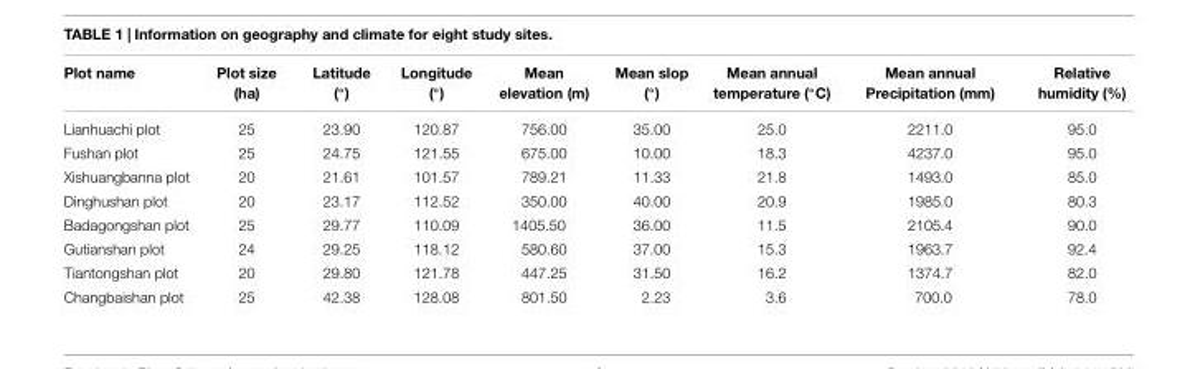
<table><thead><tr><td>Plot name</td><td>Plot size (ha)</td><td>Latitude (◦)</td><td>Longitude (◦)</td><td>Mean elevation (m)</td><td>Mean slop (◦)</td><td>Mean annual temperature (◦C)</td><td>Mean annual Precipitation (mm)</td><td>Relative humidity (%)</td></tr></thead><tbody><tr><td>Lianhuachi plot</td><td>25</td><td>23.90</td><td>120.87</td><td>756.00</td><td>35.00</td><td>25.0</td><td>2211.0</td><td>95.0</td></tr><tr><td>Fushan plot</td><td>25</td><td>24.75</td><td>121.55</td><td>675.00</td><td>10.00</td><td>18.3</td><td>4237.0</td><td>95.0</td></tr><tr><td>Xishuangbanna plot</td><td>20</td><td>21.61</td><td>101.57</td><td>789.21</td><td>11.33</td><td>21.8</td><td>1493.0</td><td>85.0</td></tr><tr><td>Dinghushan plot</td><td>20</td><td>23.17</td><td>112.52</td><td>350.00</td><td>40.00</td><td>20.9</td><td>1985.0</td><td>80.3</td></tr><tr><td>Badagongshan plot</td><td>25</td><td>29.77</td><td>110.09</td><td>1405.50</td><td>36.00</td><td>11.5</td><td>2105.4</td><td>90.0</td></tr><tr><td>Gutianshan plot</td><td>24</td><td>29.25</td><td>118.12</td><td>580.60</td><td>37.00</td><td>15.3</td><td>1963.7</td><td>92.4</td></tr><tr><td>Tiantongshan plot</td><td>20</td><td>29.80</td><td>121.78</td><td>447.25</td><td>31.50</td><td>16.2</td><td>1374.7</td><td>82.0</td></tr><tr><td>Changbaishan plot</td><td>25</td><td>42.38</td><td>128.08</td><td>801.50</td><td>2.23</td><td>3.6</td><td>700.0</td><td>78.0</td></tr></tbody></table>